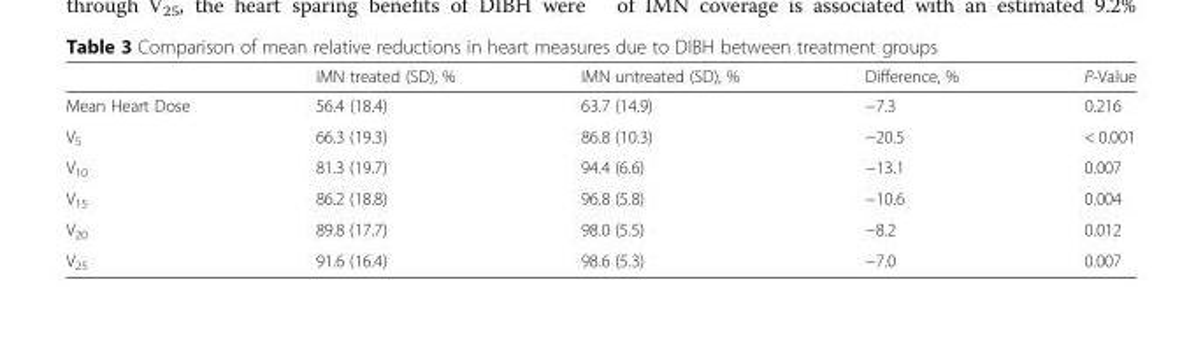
<table><thead><tr><td></td><td>IMN treated (SD), %</td><td>IMN untreated (SD), %</td><td>Difference, %</td><td>P-Value</td></tr></thead><tbody><tr><td>Mean Heart Dose</td><td>56.4 (18.4)</td><td>63.7 (14.9)</td><td>−7.3</td><td>0.216</td></tr><tr><td>V<sub>5</sub></td><td>66.3 (19.3)</td><td>86.8 (10.3)</td><td>−20.5</td><td>&lt; 0.001</td></tr><tr><td>V<sub>10</sub></td><td>81.3 (19.7)</td><td>94.4 (6.6)</td><td>−13.1</td><td>0.007</td></tr><tr><td>V<sub>15</sub></td><td>86.2 (18.8)</td><td>96.8 (5.8)</td><td>−10.6</td><td>0.004</td></tr><tr><td>V<sub>20</sub></td><td>89.8 (17.7)</td><td>98.0 (5.5)</td><td>−8.2</td><td>0.012</td></tr><tr><td>V<sub>25</sub></td><td>91.6 (16.4)</td><td>98.6 (5.3)</td><td>−7.0</td><td>0.007</td></tr></tbody></table>